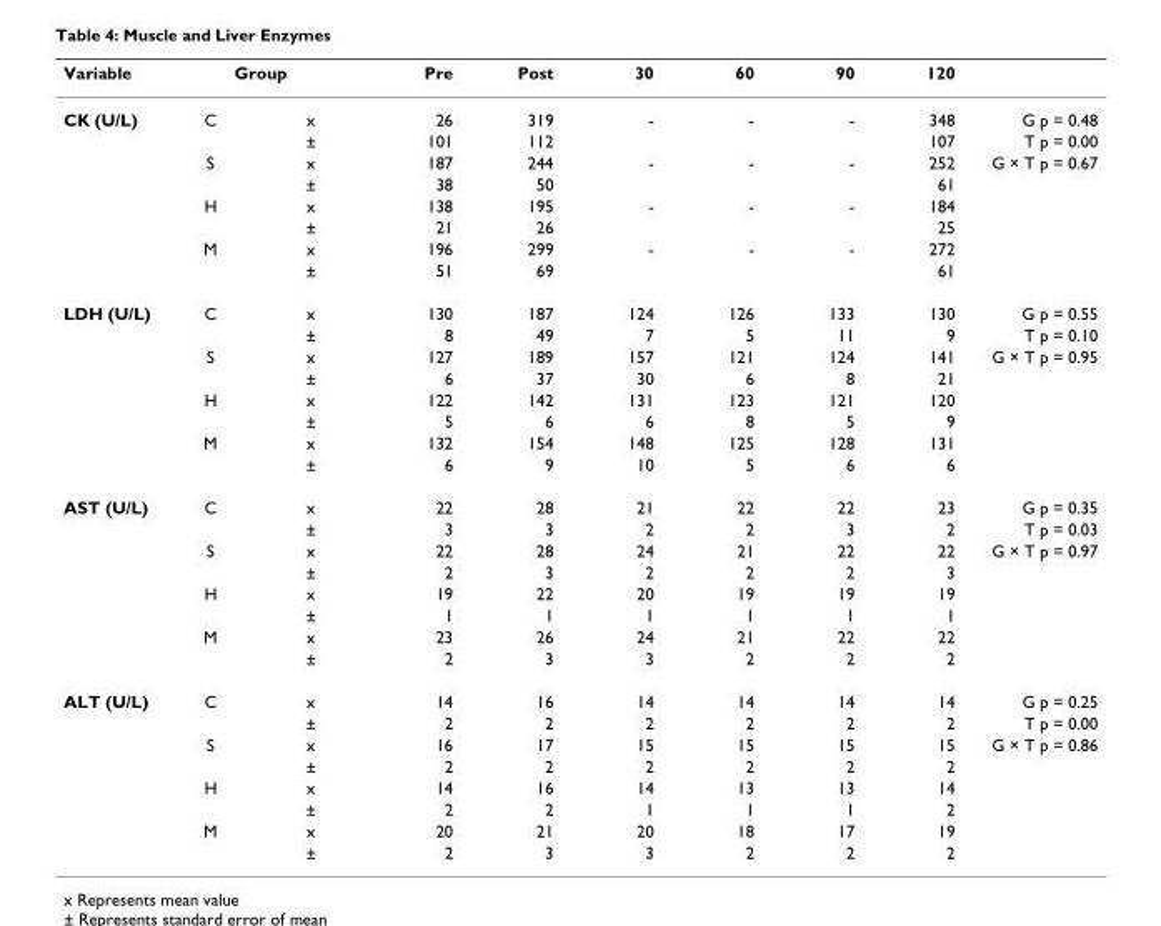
<table><thead><tr><td rowspan="2">Variable CK (U/L)</td><td colspan="2">Group</td><td rowspan="2">Pre 26</td><td rowspan="2">Post 319</td><td rowspan="2">30 -</td><td rowspan="2">60 -</td><td rowspan="2">90 -</td><td rowspan="2">120 348</td><td rowspan="2">G p = 0.48</td></tr><tr><td>C</td><td>x</td></tr></thead><tbody><tr><td></td><td></td><td>±</td><td>101</td><td>112</td><td></td><td></td><td></td><td>107</td><td>T p = 0.00</td></tr><tr><td></td><td>S</td><td>x</td><td>187</td><td>244</td><td>-</td><td>-</td><td>-</td><td>252</td><td>G × T p = 0.67</td></tr><tr><td></td><td></td><td>±</td><td>38</td><td>50</td><td></td><td></td><td></td><td>61</td><td></td></tr><tr><td></td><td>H</td><td>x</td><td>138</td><td>195</td><td>-</td><td>-</td><td>-</td><td>184</td><td></td></tr><tr><td></td><td></td><td>±</td><td>21</td><td>26</td><td></td><td></td><td></td><td>25</td><td></td></tr><tr><td></td><td>M</td><td>x</td><td>196</td><td>299</td><td>-</td><td>-</td><td>-</td><td>272</td><td></td></tr><tr><td></td><td></td><td>±</td><td>51</td><td>69</td><td></td><td></td><td></td><td>61</td><td></td></tr><tr><td rowspan="8">LDH (U/L)</td><td>C</td><td>x</td><td>130</td><td>187</td><td>124</td><td>126</td><td>133</td><td>130</td><td>G p = 0.55</td></tr><tr><td></td><td>±</td><td>8</td><td>49</td><td>7</td><td>5</td><td>11</td><td>9</td><td>T p = 0.10</td></tr><tr><td>S</td><td>x</td><td>127</td><td>189</td><td>157</td><td>121</td><td>124</td><td>141</td><td>G × T p = 0.95</td></tr><tr><td></td><td>±</td><td>6</td><td>37</td><td>30</td><td>6</td><td>8</td><td>21</td><td></td></tr><tr><td>H</td><td>x</td><td>122</td><td>142</td><td>131</td><td>123</td><td>121</td><td>120</td><td></td></tr><tr><td></td><td>±</td><td>5</td><td>6</td><td>6</td><td>8</td><td>5</td><td>9</td><td></td></tr><tr><td>M</td><td>x</td><td>132</td><td>154</td><td>148</td><td>125</td><td>128</td><td>131</td><td></td></tr><tr><td></td><td>±</td><td>6</td><td>9</td><td>10</td><td>5</td><td>6</td><td>6</td><td></td></tr><tr><td rowspan="8">AST (U/L)</td><td>C</td><td>x</td><td>22</td><td>28</td><td>21</td><td>22</td><td>22</td><td>23</td><td>G p = 0.35</td></tr><tr><td></td><td>±</td><td>3</td><td>3</td><td>2</td><td>2</td><td>3</td><td>2</td><td>T p = 0.03</td></tr><tr><td>S</td><td>x</td><td>22</td><td>28</td><td>24</td><td>21</td><td>22</td><td>22</td><td>G × T p = 0.97</td></tr><tr><td></td><td>±</td><td>2</td><td>3</td><td>2</td><td>2</td><td>2</td><td>3</td><td></td></tr><tr><td>H</td><td>x</td><td>19</td><td>22</td><td>20</td><td>19</td><td>19</td><td>19</td><td></td></tr><tr><td></td><td>±</td><td>1</td><td>1</td><td>1</td><td>1</td><td>1</td><td>1</td><td></td></tr><tr><td>M</td><td>x</td><td>23</td><td>26</td><td>24</td><td>21</td><td>22</td><td>22</td><td></td></tr><tr><td></td><td>±</td><td>2</td><td>3</td><td>3</td><td>2</td><td>2</td><td>2</td><td></td></tr><tr><td rowspan="8">ALT (U/L)</td><td>C</td><td>x</td><td>14</td><td>16</td><td>14</td><td>14</td><td>14</td><td>14</td><td>G p = 0.25</td></tr><tr><td></td><td>±</td><td>2</td><td>2</td><td>2</td><td>2</td><td>2</td><td>2</td><td>T p = 0.00</td></tr><tr><td>S</td><td>x</td><td>16</td><td>17</td><td>15</td><td>15</td><td>15</td><td>15</td><td>G × T p = 0.86</td></tr><tr><td></td><td>±</td><td>2</td><td>2</td><td>2</td><td>2</td><td>2</td><td>2</td><td></td></tr><tr><td>H</td><td>x</td><td>14</td><td>16</td><td>14</td><td>13</td><td>13</td><td>14</td><td></td></tr><tr><td></td><td>±</td><td>2</td><td>2</td><td>1</td><td>1</td><td>1</td><td>2</td><td></td></tr><tr><td>M</td><td>x</td><td>20</td><td>21</td><td>20</td><td>18</td><td>17</td><td>19</td><td></td></tr><tr><td></td><td>±</td><td>2</td><td>3</td><td>3</td><td>2</td><td>2</td><td>2</td><td></td></tr></tbody></table>